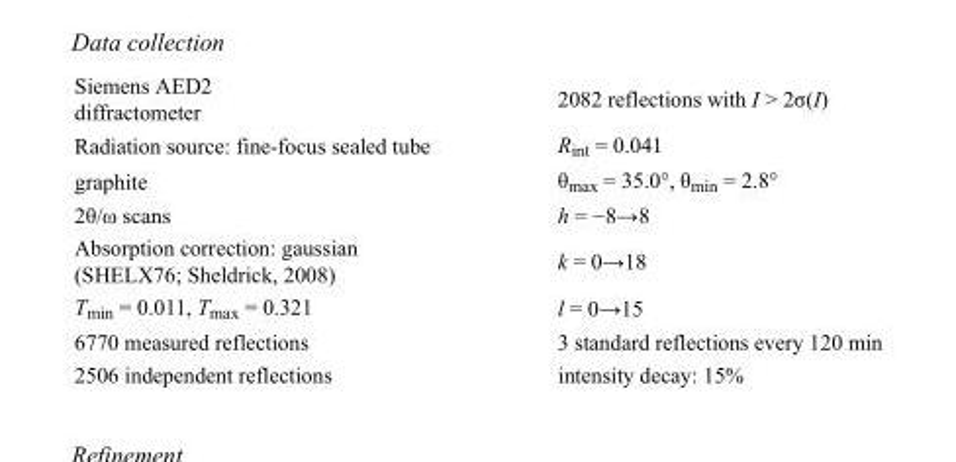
<table><tbody><tr><td>Siemens AED2 diffractometer</td><td>2082 reflections with I &gt; 2σ(I)</td></tr><tr><td>Radiation source: fine-focus sealed tube</td><td>R<sub>int</sub> = 0.041</td></tr><tr><td>graphite</td><td>θ<sub>max</sub> = 35.0°, θ<sub>min</sub> = 2.8°</td></tr><tr><td>2θ/ω scans</td><td>h = −8→8</td></tr><tr><td>Absorption correction: gaussian (SHELX76; Sheldrick, 2008)</td><td>k = 0→18</td></tr><tr><td>T<sub>min</sub> = 0.011, T<sub>max</sub> = 0.321</td><td>l = 0→15</td></tr><tr><td>6770 measured reflections</td><td>3 standard reflections every 120 min</td></tr><tr><td>2506 independent reflections</td><td>intensity decay: 15%</td></tr></tbody></table>